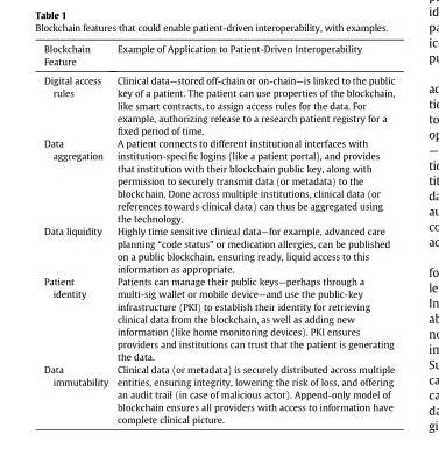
<table><thead><tr><td>Blockchain Feature</td><td>Example of Application to Patient-Driven Interoperability</td></tr></thead><tbody><tr><td>Digital access rules</td><td>Clinical data—stored off-chain or on-chain—is linked to the public key of a patient. The patient can use properties of the blockchain, like smart contracts, to assign access rules for the data. For example, authorizing release to a research patient registry for a fixed period of time.</td></tr><tr><td>Data aggregation</td><td>A patient connects to different institutional interfaces with institution-specific logins (like a patient portal), and provides that institution with their blockchain public key, along with permission to securely transmit data (or metadata) to the blockchain. Done across multiple institutions, clinical data (or references towards clinical data) can thus be aggregated using the technology.</td></tr><tr><td>Data liquidity</td><td>Highly time sensitive clinical data—for example, advanced care planning “code status” or medication allergies, can be published on a public blockchain, ensuring ready, liquid access to this information as appropriate.</td></tr><tr><td>Patient identity</td><td>Patients can manage their public keys—perhaps through a multi-sig wallet or mobile device—and use the public-key infrastructure (PKI) to establish their identity for retrieving clinical data from the blockchain, as well as adding new information (like home monitoring devices). PKI ensures providers and institutions can trust that the patient is generating the data.</td></tr><tr><td>Data immutability</td><td>Clinical data (or metadata) is securely distributed across multiple entities, ensuring integrity, lowering the risk of loss, and offering an audit trail (in case of malicious actor). Append-only model of blockchain ensures all providers with access to information have complete clinical picture.</td></tr></tbody></table>